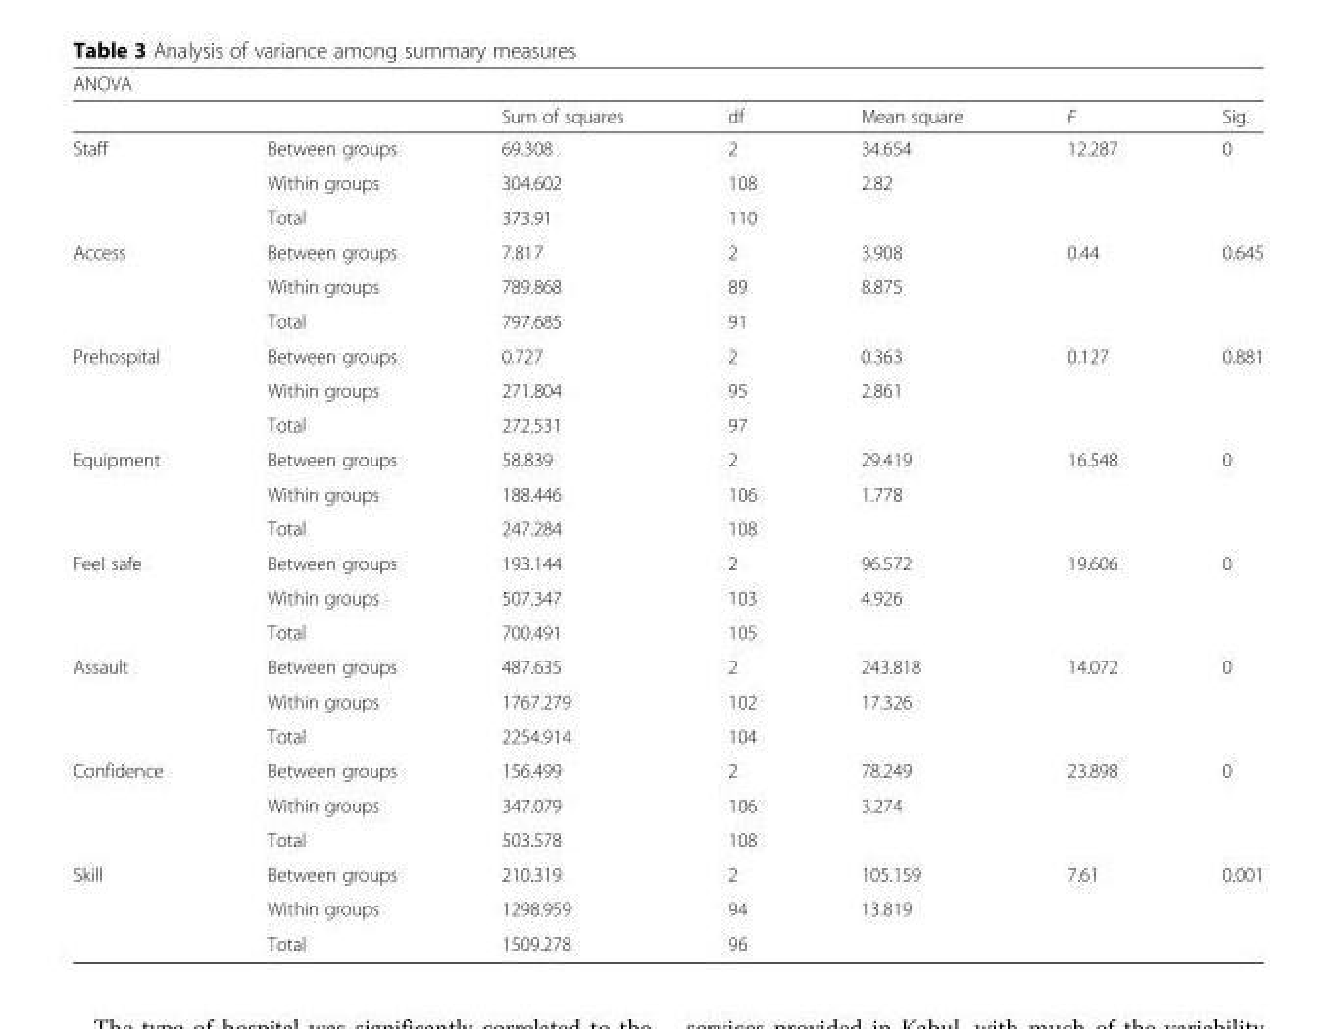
<table><thead><tr><td colspan="7">ANOVA</td></tr><tr><td></td><td></td><td>Sum of squares</td><td>df</td><td>Mean square</td><td>F</td><td>Sig.</td></tr></thead><tbody><tr><td rowspan="3">Staff</td><td>Between groups</td><td>69.308</td><td>2</td><td>34.654</td><td>12.287</td><td>0</td></tr><tr><td>Within groups</td><td>304.602</td><td>108</td><td>2.82</td><td></td><td></td></tr><tr><td>Total</td><td>373.91</td><td>110</td><td></td><td></td><td></td></tr><tr><td rowspan="3">Access</td><td>Between groups</td><td>7.817</td><td>2</td><td>3.908</td><td>0.44</td><td>0.645</td></tr><tr><td>Within groups</td><td>789.868</td><td>89</td><td>8.875</td><td></td><td></td></tr><tr><td>Total</td><td>797.685</td><td>91</td><td></td><td></td><td></td></tr><tr><td rowspan="3">Prehospital</td><td>Between groups</td><td>0.727</td><td>2</td><td>0.363</td><td>0.127</td><td>0.881</td></tr><tr><td>Within groups</td><td>271.804</td><td>95</td><td>2.861</td><td></td><td></td></tr><tr><td>Total</td><td>272.531</td><td>97</td><td></td><td></td><td></td></tr><tr><td rowspan="3">Equipment</td><td>Between groups</td><td>58.839</td><td>2</td><td>29.419</td><td>16.548</td><td>0</td></tr><tr><td>Within groups</td><td>188.446</td><td>106</td><td>1.778</td><td></td><td></td></tr><tr><td>Total</td><td>247.284</td><td>108</td><td></td><td></td><td></td></tr><tr><td rowspan="3">Feel safe</td><td>Between groups</td><td>193.144</td><td>2</td><td>96.572</td><td>19.606</td><td>0</td></tr><tr><td>Within groups</td><td>507.347</td><td>103</td><td>4.926</td><td></td><td></td></tr><tr><td>Total</td><td>700.491</td><td>105</td><td></td><td></td><td></td></tr><tr><td rowspan="3">Assault</td><td>Between groups</td><td>487.635</td><td>2</td><td>243.818</td><td>14.072</td><td>0</td></tr><tr><td>Within groups</td><td>1767.279</td><td>102</td><td>17.326</td><td></td><td></td></tr><tr><td>Total</td><td>2254.914</td><td>104</td><td></td><td></td><td></td></tr><tr><td rowspan="3">Confidence</td><td>Between groups</td><td>156.499</td><td>2</td><td>78.249</td><td>23.898</td><td>0</td></tr><tr><td>Within groups</td><td>347.079</td><td>106</td><td>3.274</td><td></td><td></td></tr><tr><td>Total</td><td>503.578</td><td>108</td><td></td><td></td><td></td></tr><tr><td rowspan="3">Skill</td><td>Between groups</td><td>210.319</td><td>2</td><td>105.159</td><td>7.61</td><td>0.001</td></tr><tr><td>Within groups</td><td>1298.959</td><td>94</td><td>13.819</td><td></td><td></td></tr><tr><td>Total</td><td>1509.278</td><td>96</td><td></td><td></td><td></td></tr></tbody></table>